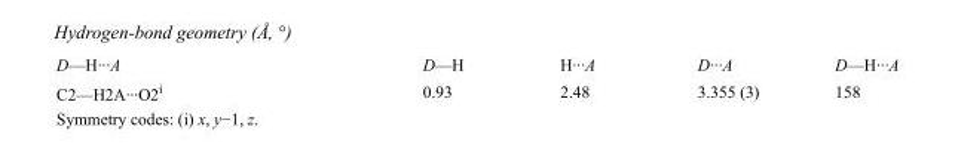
<table><tbody><tr><td>D—H···A</td><td>D—H</td><td>H···A</td><td>D···A</td><td>D—H···A</td></tr><tr><td>C2—H2A···O2<sup>i</sup></td><td>0.93</td><td>2.48</td><td>3.355 (3)</td><td>158</td></tr></tbody></table>